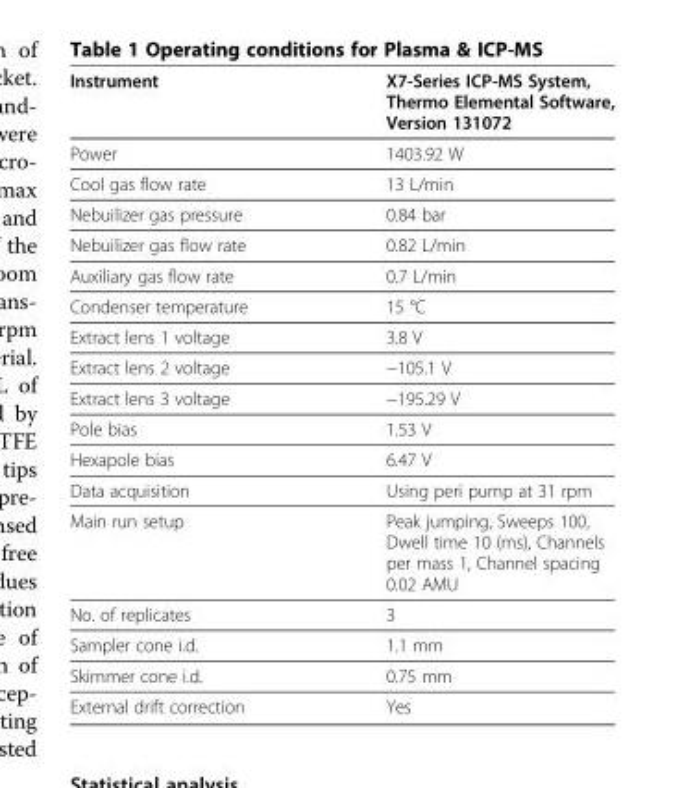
<table><thead><tr><td>Instrument</td><td>X7-Series ICP-MS System, Thermo Elemental Software, Version 131072</td></tr></thead><tbody><tr><td>Power</td><td>1403.92 W</td></tr><tr><td>Cool gas flow rate</td><td>13 L/min</td></tr><tr><td>Nebuilizer gas pressure</td><td>0.84 bar</td></tr><tr><td>Nebuilizer gas flow rate</td><td>0.82 L/min</td></tr><tr><td>Auxiliary gas flow rate</td><td>0.7 L/min</td></tr><tr><td>Condenser temperature</td><td>15 °C</td></tr><tr><td>Extract lens 1 voltage</td><td>3.8 V</td></tr><tr><td>Extract lens 2 voltage</td><td>−105.1 V</td></tr><tr><td>Extract lens 3 voltage</td><td>−195.29 V</td></tr><tr><td>Pole bias</td><td>1.53 V</td></tr><tr><td>Hexapole bias</td><td>6.47 V</td></tr><tr><td>Data acquisition</td><td>Using peri pump at 31 rpm</td></tr><tr><td>Main run setup</td><td>Peak jumping, Sweeps 100, Dwell time 10 (ms), Channels per mass 1, Channel spacing 0.02 AMU</td></tr><tr><td>No. of replicates</td><td>3</td></tr><tr><td>Sampler cone i.d.</td><td>1.1 mm</td></tr><tr><td>Skimmer cone i.d.</td><td>0.75 mm</td></tr><tr><td>External drift correction</td><td>Yes</td></tr></tbody></table>